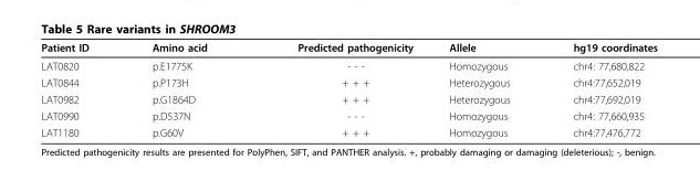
<table><thead><tr><td>Patient ID</td><td>Amino acid</td><td>Predicted pathogenicity</td><td>Allele</td><td>hg19 coordinates</td></tr></thead><tbody><tr><td>LAT0820</td><td>p.E1775K</td><td>- - -</td><td>Homozygous</td><td>chr4: 77,680,822</td></tr><tr><td>LAT0844</td><td>p.P173H</td><td>+ + +</td><td>Heterozygous</td><td>chr4:77,652,019</td></tr><tr><td>LAT0982</td><td>p.G1864D</td><td>+ + +</td><td>Heterozygous</td><td>chr4:77,692,019</td></tr><tr><td>LAT0990</td><td>p.D537N</td><td>- - -</td><td>Homozygous</td><td>chr4: 77,660,935</td></tr><tr><td>LAT1180</td><td>p.G60V</td><td>+ + +</td><td>Homozygous</td><td>chr4:77,476,772</td></tr></tbody></table>